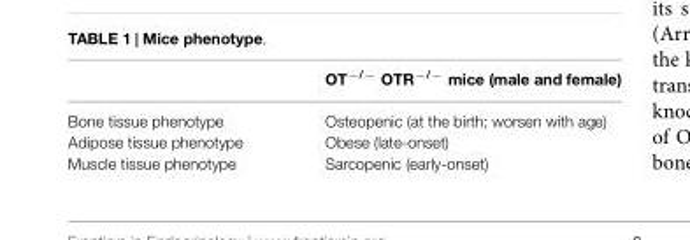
<table><thead><tr><td></td><td>OT<sup>−/−</sup> OTR<sup>−/−</sup> mice (male and female)</td></tr></thead><tbody><tr><td>Bone tissue phenotype</td><td>Osteopenic (at the birth; worsen with age)</td></tr><tr><td>Adipose tissue phenotype</td><td>Obese (late-onset)</td></tr><tr><td>Muscle tissue phenotype</td><td>Sarcopenic (early-onset)</td></tr></tbody></table>